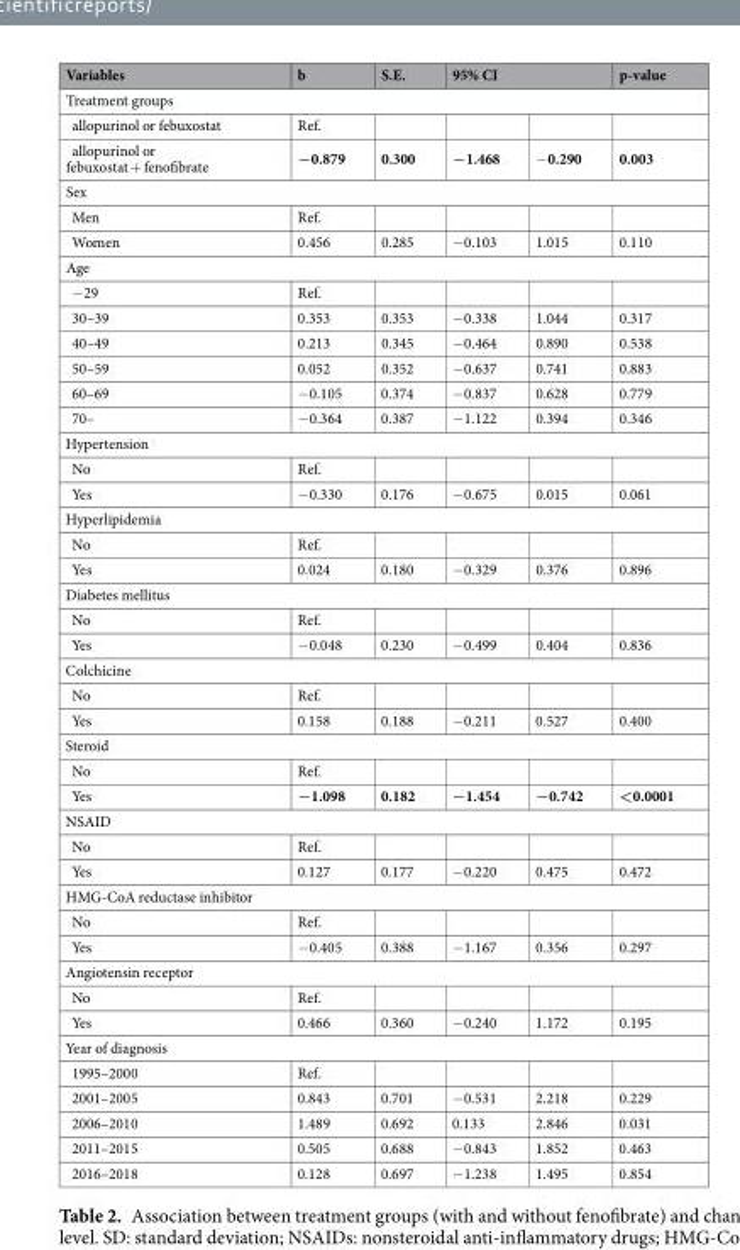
<table><thead><tr><td>Variables</td><td>b</td><td>S.E.</td><td colspan="2">95% CI</td><td>p-value</td></tr><tr><td colspan="6">Treatment groups</td></tr><tr><td>allopurinol or febuxostat</td><td>Ref.</td><td></td><td></td><td></td><td></td></tr></thead><tbody><tr><td>allopurinol or febuxostat + fenofibrate</td><td>−0.879</td><td>0.300</td><td>−1.468</td><td>−0.290</td><td>0.003</td></tr><tr><td colspan="6">Sex</td></tr><tr><td>Men</td><td>Ref.</td><td></td><td></td><td></td><td></td></tr><tr><td>Women</td><td>0.456</td><td>0.285</td><td>−0.103</td><td>1.015</td><td>0.110</td></tr><tr><td colspan="6">Age</td></tr><tr><td>−29</td><td>Ref.</td><td></td><td></td><td></td><td></td></tr><tr><td>30–39</td><td>0.353</td><td>0.353</td><td>−0.338</td><td>1.044</td><td>0.317</td></tr><tr><td>40–49</td><td>0.213</td><td>0.345</td><td>−0.464</td><td>0.890</td><td>0.538</td></tr><tr><td>50–59</td><td>0.052</td><td>0.352</td><td>−0.637</td><td>0.741</td><td>0.883</td></tr><tr><td>60–69</td><td>−0.105</td><td>0.374</td><td>−0.837</td><td>0.628</td><td>0.779</td></tr><tr><td>70–</td><td>−0.364</td><td>0.387</td><td>−1.122</td><td>0.394</td><td>0.346</td></tr><tr><td colspan="6">Hypertension</td></tr><tr><td>No</td><td>Ref.</td><td></td><td></td><td></td><td></td></tr><tr><td>Yes</td><td>−0.330</td><td>0.176</td><td>−0.675</td><td>0.015</td><td>0.061</td></tr><tr><td colspan="6">Hyperlipidemia</td></tr><tr><td>No</td><td>Ref.</td><td></td><td></td><td></td><td></td></tr><tr><td>Yes</td><td>0.024</td><td>0.180</td><td>−0.329</td><td>0.376</td><td>0.896</td></tr><tr><td colspan="6">Diabetes mellitus</td></tr><tr><td>No</td><td>Ref.</td><td></td><td></td><td></td><td></td></tr><tr><td>Yes</td><td>−0.048</td><td>0.230</td><td>−0.499</td><td>0.404</td><td>0.836</td></tr><tr><td colspan="6">Colchicine</td></tr><tr><td>No</td><td>Ref.</td><td></td><td></td><td></td><td></td></tr><tr><td>Yes</td><td>0.158</td><td>0.188</td><td>−0.211</td><td>0.527</td><td>0.400</td></tr><tr><td colspan="6">Steroid</td></tr><tr><td>No</td><td>Ref.</td><td></td><td></td><td></td><td></td></tr><tr><td>Yes</td><td>−1.098</td><td>0.182</td><td>−1.454</td><td>−0.742</td><td>&lt;0.0001</td></tr><tr><td colspan="6">NSAID</td></tr><tr><td>No</td><td>Ref.</td><td></td><td></td><td></td><td></td></tr><tr><td>Yes</td><td>0.127</td><td>0.177</td><td>−0.220</td><td>0.475</td><td>0.472</td></tr><tr><td colspan="6">HMG-CoA reductase inhibitor</td></tr><tr><td>No</td><td>Ref.</td><td></td><td></td><td></td><td></td></tr><tr><td>Yes</td><td>−0.405</td><td>0.388</td><td>−1.167</td><td>0.356</td><td>0.297</td></tr><tr><td colspan="6">Angiotensin receptor</td></tr><tr><td>No</td><td>Ref.</td><td></td><td></td><td></td><td></td></tr><tr><td>Yes</td><td>0.466</td><td>0.360</td><td>−0.240</td><td>1.172</td><td>0.195</td></tr><tr><td colspan="6">Year of diagnosis</td></tr><tr><td>1995–2000</td><td>Ref.</td><td></td><td></td><td></td><td></td></tr><tr><td>2001–2005</td><td>0.843</td><td>0.701</td><td>−0.531</td><td>2.218</td><td>0.229</td></tr><tr><td>2006–2010</td><td>1.489</td><td>0.692</td><td>0.133</td><td>2.846</td><td>0.031</td></tr><tr><td>2011–2015</td><td>0.505</td><td>0.688</td><td>−0.843</td><td>1.852</td><td>0.463</td></tr><tr><td>2016–2018</td><td>0.128</td><td>0.697</td><td>−1.238</td><td>1.495</td><td>0.854</td></tr></tbody></table>